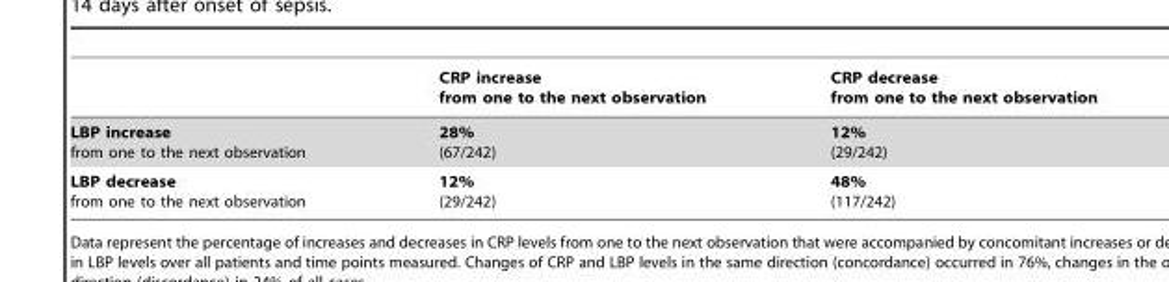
<table><thead><tr><td></td><td>CRP increase from one to the next observation</td><td>CRP decrease from one to the next observation</td></tr></thead><tbody><tr><td>LBP increase from one to the next observation</td><td>28% (67/242)</td><td>12% (29/242)</td></tr><tr><td>LBP decrease from one to the next observation</td><td>12% (29/242)</td><td>48% (117/242)</td></tr></tbody></table>